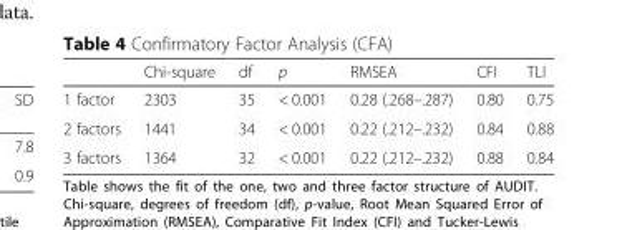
<table><thead><tr><td></td><td>Chi-square</td><td>df</td><td>p</td><td>RMSEA</td><td>CFI</td><td>TLI</td></tr></thead><tbody><tr><td>1 factor</td><td>2303</td><td>35</td><td>&lt; 0.001</td><td>0.28 (.268–.287)</td><td>0.80</td><td>0.75</td></tr><tr><td>2 factors</td><td>1441</td><td>34</td><td>&lt; 0.001</td><td>0.22 (.212–.232)</td><td>0.84</td><td>0.88</td></tr><tr><td>3 factors</td><td>1364</td><td>32</td><td>&lt; 0.001</td><td>0.22 (.212–.232)</td><td>0.88</td><td>0.84</td></tr></tbody></table>